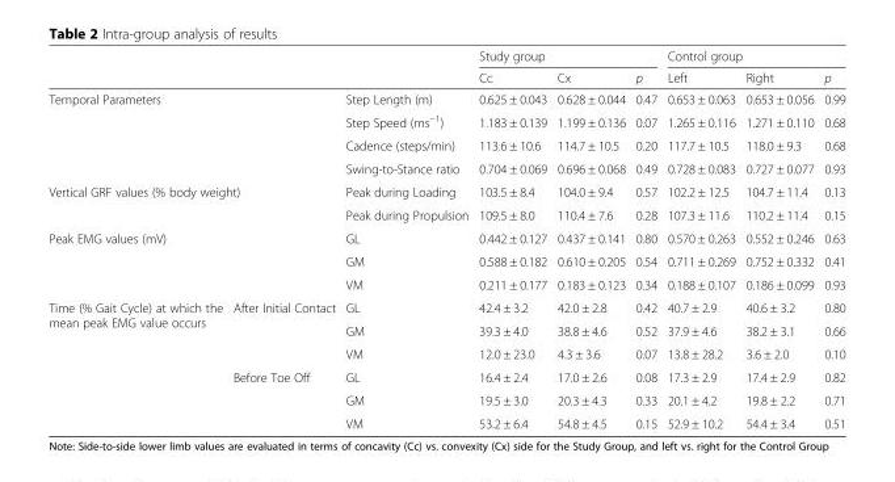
<table><thead><tr><td rowspan="2"></td><td rowspan="2"></td><td rowspan="2"></td><td colspan="3">Study group</td><td colspan="3">Control group</td></tr><tr><td>Cc</td><td>Cx</td><td>p</td><td>Left</td><td>Right</td><td>p</td></tr></thead><tbody><tr><td rowspan="4" colspan="2">Temporal Parameters</td><td>Step Length (m)</td><td>0.625 ± 0.043</td><td>0.628 ± 0.044</td><td>0.47</td><td>0.653 ± 0.063</td><td>0.653 ± 0.056</td><td>0.99</td></tr><tr><td>Step Speed (ms<sup>−1</sup>)</td><td>1.183 ± 0.139</td><td>1.199 ± 0.136</td><td>0.07</td><td>1.265 ± 0.116</td><td>1.271 ± 0.110</td><td>0.68</td></tr><tr><td>Cadence (steps/min)</td><td>113.6 ± 10.6</td><td>114.7 ± 10.5</td><td>0.20</td><td>117.7 ± 10.5</td><td>118.0 ± 9.3</td><td>0.68</td></tr><tr><td>Swing-to-Stance ratio</td><td>0.704 ± 0.069</td><td>0.696 ± 0.068</td><td>0.49</td><td>0.728 ± 0.083</td><td>0.727 ± 0.077</td><td>0.93</td></tr><tr><td rowspan="2" colspan="2">Vertical GRF values (% body weight)</td><td>Peak during Loading</td><td>103.5 ± 8.4</td><td>104.0 ± 9.4</td><td>0.57</td><td>102.2 ± 12.5</td><td>104.7 ± 11.4</td><td>0.13</td></tr><tr><td>Peak during Propulsion</td><td>109.5 ± 8.0</td><td>110.4 ± 7.6</td><td>0.28</td><td>107.3 ± 11.6</td><td>110.2 ± 11.4</td><td>0.15</td></tr><tr><td rowspan="3" colspan="2">Peak EMG values (mV)</td><td>GL</td><td>0.442 ± 0.127</td><td>0.437 ± 0.141</td><td>0.80</td><td>0.570 ± 0.263</td><td>0.552 ± 0.246</td><td>0.63</td></tr><tr><td>GM</td><td>0.588 ± 0.182</td><td>0.610 ± 0.205</td><td>0.54</td><td>0.711 ± 0.269</td><td>0.752 ± 0.332</td><td>0.41</td></tr><tr><td>VM</td><td>0.211 ± 0.177</td><td>0.183 ± 0.123</td><td>0.34</td><td>0.188 ± 0.107</td><td>0.186 ± 0.099</td><td>0.93</td></tr><tr><td rowspan="6">Time (% Gait Cycle) at which the mean peak EMG value occurs</td><td rowspan="3">After Initial Contact</td><td>GL</td><td>42.4 ± 3.2</td><td>42.0 ± 2.8</td><td>0.42</td><td>40.7 ± 2.9</td><td>40.6 ± 3.2</td><td>0.80</td></tr><tr><td>GM</td><td>39.3 ± 4.0</td><td>38.8 ± 4.6</td><td>0.52</td><td>37.9 ± 4.6</td><td>38.2 ± 3.1</td><td>0.66</td></tr><tr><td>VM</td><td>12.0 ± 23.0</td><td>4.3 ± 3.6</td><td>0.07</td><td>13.8 ± 28.2</td><td>3.6 ± 2.0</td><td>0.10</td></tr><tr><td rowspan="3">Before Toe Off</td><td>GL</td><td>16.4 ± 2.4</td><td>17.0 ± 2.6</td><td>0.08</td><td>17.3 ± 2.9</td><td>17.4 ± 2.9</td><td>0.82</td></tr><tr><td>GM</td><td>19.5 ± 3.0</td><td>20.3 ± 4.3</td><td>0.33</td><td>20.1 ± 4.2</td><td>19.8 ± 2.2</td><td>0.71</td></tr><tr><td>VM</td><td>53.2 ± 6.4</td><td>54.8 ± 4.5</td><td>0.15</td><td>52.9 ± 10.2</td><td>54.4 ± 3.4</td><td>0.51</td></tr></tbody></table>